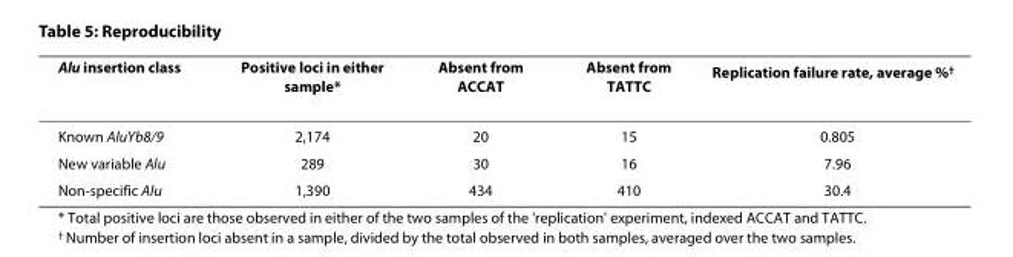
<table><thead><tr><td>Alu insertion class</td><td>Positive loci in either sample*</td><td>Absent from ACCAT</td><td>Absent from TATTC</td><td>Replication failure rate, average %<sup>†</sup></td></tr></thead><tbody><tr><td>Known AluYb8/9</td><td>2,174</td><td>20</td><td>15</td><td>0.805</td></tr><tr><td>New variable Alu</td><td>289</td><td>30</td><td>16</td><td>7.96</td></tr><tr><td>Non-specific Alu</td><td>1,390</td><td>434</td><td>410</td><td>30.4</td></tr></tbody></table>